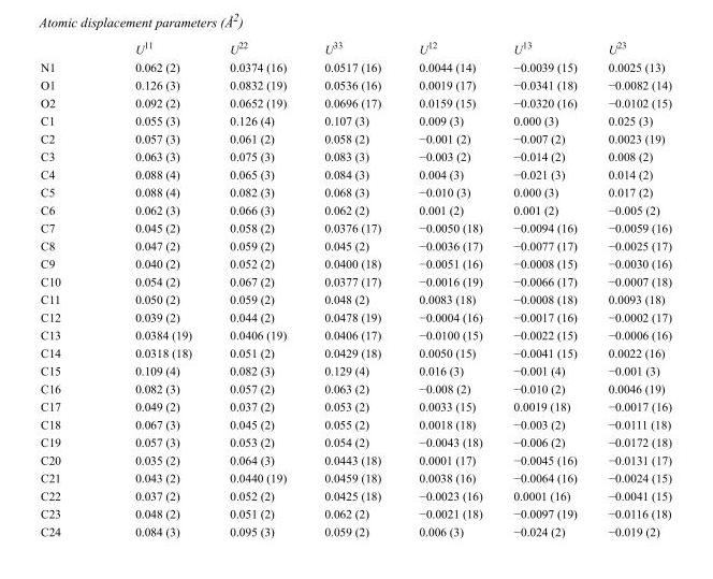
<table><thead><tr><td></td><td>U<sup>11</sup></td><td>U<sup>22</sup></td><td>U<sup>33</sup></td><td>U<sup>12</sup></td><td>U<sup>13</sup></td><td>U<sup>23</sup></td></tr></thead><tbody><tr><td>N1</td><td>0.062 (2)</td><td>0.0374 (16)</td><td>0.0517 (16)</td><td>0.0044 (14)</td><td>−0.0039 (15)</td><td>0.0025 (13)</td></tr><tr><td>O1</td><td>0.126 (3)</td><td>0.0832 (19)</td><td>0.0536 (16)</td><td>0.0019 (17)</td><td>−0.0341 (18)</td><td>−0.0082 (14)</td></tr><tr><td>O2</td><td>0.092 (2)</td><td>0.0652 (19)</td><td>0.0696 (17)</td><td>0.0159 (15)</td><td>−0.0320 (16)</td><td>−0.0102 (15)</td></tr><tr><td>C1</td><td>0.055 (3)</td><td>0.126 (4)</td><td>0.107 (3)</td><td>0.009 (3)</td><td>0.000 (3)</td><td>0.025 (3)</td></tr><tr><td>C2</td><td>0.057 (3)</td><td>0.061 (2)</td><td>0.058 (2)</td><td>−0.001 (2)</td><td>−0.007 (2)</td><td>0.0023 (19)</td></tr><tr><td>C3</td><td>0.063 (3)</td><td>0.075 (3)</td><td>0.083 (3)</td><td>−0.003 (2)</td><td>−0.014 (2)</td><td>0.008 (2)</td></tr><tr><td>C4</td><td>0.088 (4)</td><td>0.065 (3)</td><td>0.084 (3)</td><td>0.004 (3)</td><td>−0.021 (3)</td><td>0.014 (2)</td></tr><tr><td>C5</td><td>0.088 (4)</td><td>0.082 (3)</td><td>0.068 (3)</td><td>−0.010 (3)</td><td>0.000 (3)</td><td>0.017 (2)</td></tr><tr><td>C6</td><td>0.062 (3)</td><td>0.066 (3)</td><td>0.062 (2)</td><td>0.001 (2)</td><td>0.001 (2)</td><td>−0.005 (2)</td></tr><tr><td>C7</td><td>0.045 (2)</td><td>0.058 (2)</td><td>0.0376 (17)</td><td>−0.0050 (18)</td><td>−0.0094 (16)</td><td>−0.0059 (16)</td></tr><tr><td>C8</td><td>0.047 (2)</td><td>0.059 (2)</td><td>0.045 (2)</td><td>−0.0036 (17)</td><td>−0.0077 (17)</td><td>−0.0025 (17)</td></tr><tr><td>C9</td><td>0.040 (2)</td><td>0.052 (2)</td><td>0.0400 (18)</td><td>−0.0051 (16)</td><td>−0.0008 (15)</td><td>−0.0030 (16)</td></tr><tr><td>C10</td><td>0.054 (2)</td><td>0.067 (2)</td><td>0.0377 (17)</td><td>−0.0016 (19)</td><td>−0.0066 (17)</td><td>−0.0007 (18)</td></tr><tr><td>C11</td><td>0.050 (2)</td><td>0.059 (2)</td><td>0.048 (2)</td><td>0.0083 (18)</td><td>−0.0008 (18)</td><td>0.0093 (18)</td></tr><tr><td>C12</td><td>0.039 (2)</td><td>0.044 (2)</td><td>0.0478 (19)</td><td>−0.0004 (16)</td><td>−0.0017 (16)</td><td>−0.0002 (17)</td></tr><tr><td>C13</td><td>0.0384 (19)</td><td>0.0406 (19)</td><td>0.0406 (17)</td><td>−0.0100 (15)</td><td>−0.0022 (15)</td><td>−0.0006 (16)</td></tr><tr><td>C14</td><td>0.0318 (18)</td><td>0.051 (2)</td><td>0.0429 (18)</td><td>0.0050 (15)</td><td>−0.0041 (15)</td><td>0.0022 (16)</td></tr><tr><td>C15</td><td>0.109 (4)</td><td>0.082 (3)</td><td>0.129 (4)</td><td>0.016 (3)</td><td>−0.001 (4)</td><td>−0.001 (3)</td></tr><tr><td>C16</td><td>0.082 (3)</td><td>0.057 (2)</td><td>0.063 (2)</td><td>−0.008 (2)</td><td>−0.010 (2)</td><td>0.0046 (19)</td></tr><tr><td>C17</td><td>0.049 (2)</td><td>0.037 (2)</td><td>0.053 (2)</td><td>0.0033 (15)</td><td>0.0019 (18)</td><td>−0.0017 (16)</td></tr><tr><td>C18</td><td>0.067 (3)</td><td>0.045 (2)</td><td>0.055 (2)</td><td>0.0018 (18)</td><td>−0.003 (2)</td><td>−0.0111 (18)</td></tr><tr><td>C19</td><td>0.057 (3)</td><td>0.053 (2)</td><td>0.054 (2)</td><td>−0.0043 (18)</td><td>−0.006 (2)</td><td>−0.0172 (18)</td></tr><tr><td>C20</td><td>0.035 (2)</td><td>0.064 (3)</td><td>0.0443 (18)</td><td>0.0001 (17)</td><td>−0.0045 (16)</td><td>−0.0131 (17)</td></tr><tr><td>C21</td><td>0.043 (2)</td><td>0.0440 (19)</td><td>0.0459 (18)</td><td>0.0038 (16)</td><td>−0.0064 (16)</td><td>−0.0024 (15)</td></tr><tr><td>C22</td><td>0.037 (2)</td><td>0.052 (2)</td><td>0.0425 (18)</td><td>−0.0023 (16)</td><td>0.0001 (16)</td><td>−0.0041 (15)</td></tr><tr><td>C23</td><td>0.048 (2)</td><td>0.051 (2)</td><td>0.062 (2)</td><td>−0.0021 (18)</td><td>−0.0097 (19)</td><td>−0.0116 (18)</td></tr><tr><td>C24</td><td>0.084 (3)</td><td>0.095 (3)</td><td>0.059 (2)</td><td>0.006 (3)</td><td>−0.024 (2)</td><td>−0.019 (2)</td></tr></tbody></table>